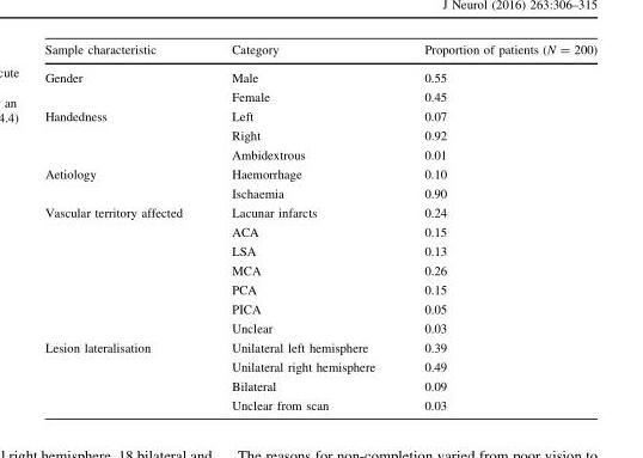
<table><thead><tr><td>Sample characteristic</td><td>Category</td><td>Proportion of patients (N = 200)</td></tr></thead><tbody><tr><td rowspan="2">Gender</td><td>Male</td><td>0.55</td></tr><tr><td>Female</td><td>0.45</td></tr><tr><td rowspan="3">Handedness</td><td>Left</td><td>0.07</td></tr><tr><td>Right</td><td>0.92</td></tr><tr><td>Ambidextrous</td><td>0.01</td></tr><tr><td rowspan="2">Aetiology</td><td>Haemorrhage</td><td>0.10</td></tr><tr><td>Ischaemia</td><td>0.90</td></tr><tr><td rowspan="7">Vascular territory affected</td><td>Lacunar infarcts</td><td>0.24</td></tr><tr><td>ACA</td><td>0.15</td></tr><tr><td>LSA</td><td>0.13</td></tr><tr><td>MCA</td><td>0.26</td></tr><tr><td>PCA</td><td>0.15</td></tr><tr><td>PICA</td><td>0.05</td></tr><tr><td>Unclear</td><td>0.03</td></tr><tr><td rowspan="4">Lesion lateralisation</td><td>Unilateral left hemisphere</td><td>0.39</td></tr><tr><td>Unilateral right hemisphere</td><td>0.49</td></tr><tr><td>Bilateral</td><td>0.09</td></tr><tr><td>Unclear from scan</td><td>0.03</td></tr></tbody></table>